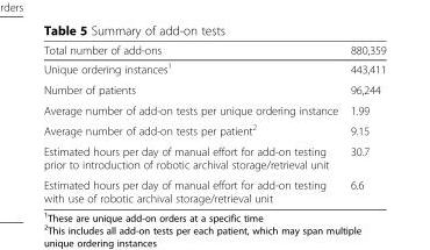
<table><thead><tr><td>Total number of add-ons</td><td>880,359</td></tr></thead><tbody><tr><td>Unique ordering instances<sup>1</sup></td><td>443,411</td></tr><tr><td>Number of patients</td><td>96,244</td></tr><tr><td>Average number of add-on tests per unique ordering instance</td><td>1.99</td></tr><tr><td>Average number of add-on tests per patient<sup>2</sup></td><td>9.15</td></tr><tr><td>Estimated hours per day of manual effort for add-on testing prior to introduction of robotic archival storage/retrieval unit</td><td>30.7</td></tr><tr><td>Estimated hours per day of manual effort for add-on testing with use of robotic archival storage/retrieval unit</td><td>6.6</td></tr></tbody></table>